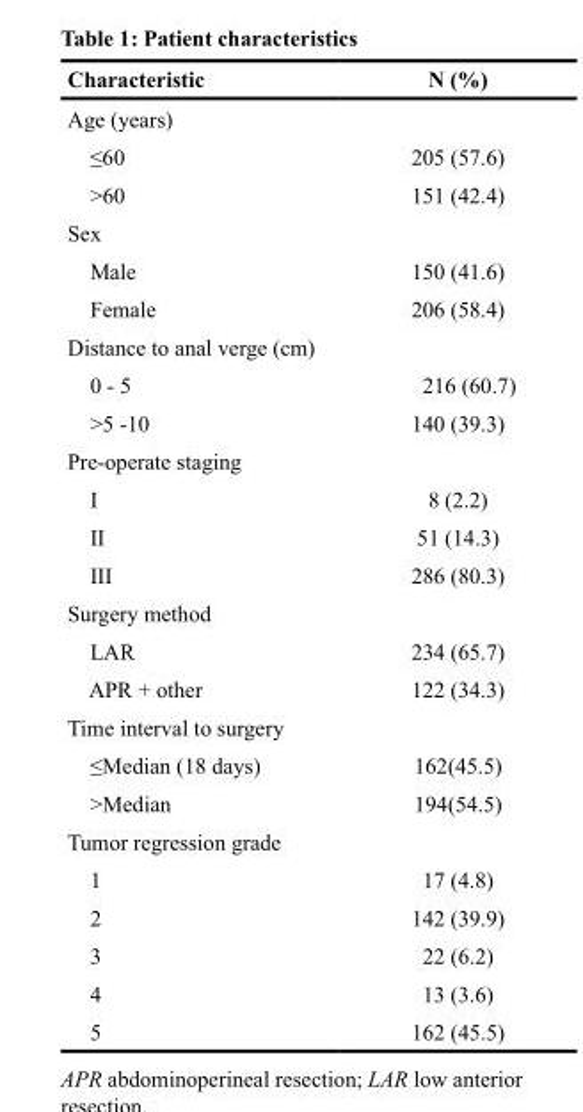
<table><thead><tr><td>Characteristic</td><td>N (%)</td></tr></thead><tbody><tr><td colspan="2">Age (years)</td></tr><tr><td>≤60</td><td>205 (57.6)</td></tr><tr><td>&gt;60</td><td>151 (42.4)</td></tr><tr><td colspan="2">Sex</td></tr><tr><td>Male</td><td>150 (41.6)</td></tr><tr><td>Female</td><td>206 (58.4)</td></tr><tr><td colspan="2">Distance to anal verge (cm)</td></tr><tr><td>0 - 5</td><td>216 (60.7)</td></tr><tr><td>&gt;5 -10</td><td>140 (39.3)</td></tr><tr><td colspan="2">Pre-operate staging</td></tr><tr><td>I</td><td>8 (2.2)</td></tr><tr><td>II</td><td>51 (14.3)</td></tr><tr><td>III</td><td>286 (80.3)</td></tr><tr><td colspan="2">Surgery method</td></tr><tr><td>LAR</td><td>234 (65.7)</td></tr><tr><td>APR + other</td><td>122 (34.3)</td></tr><tr><td colspan="2">Time interval to surgery</td></tr><tr><td>≤Median (18 days)</td><td>162(45.5)</td></tr><tr><td>&gt;Median</td><td>194(54.5)</td></tr><tr><td colspan="2">Tumor regression grade</td></tr><tr><td>1</td><td>17 (4.8)</td></tr><tr><td>2</td><td>142 (39.9)</td></tr><tr><td>3</td><td>22 (6.2)</td></tr><tr><td>4</td><td>13 (3.6)</td></tr><tr><td>5</td><td>162 (45.5)</td></tr></tbody></table>